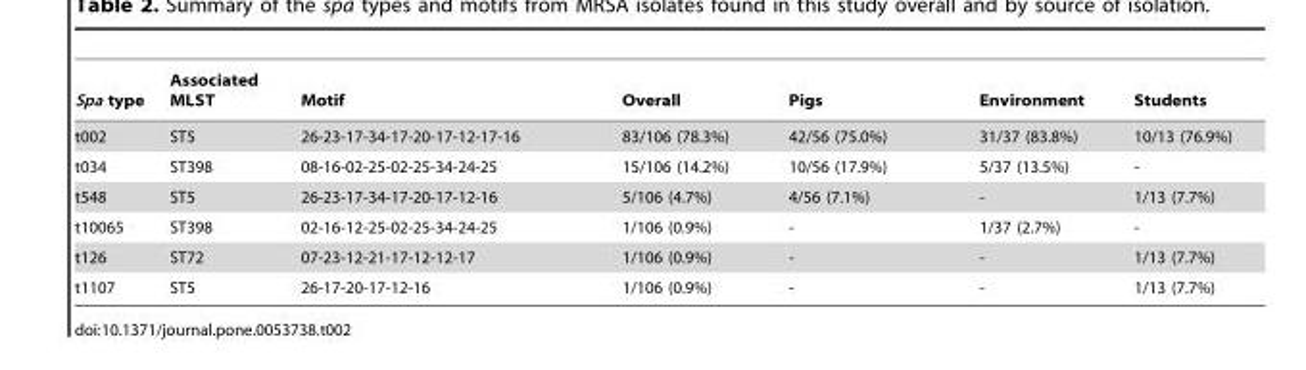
<table><thead><tr><td>Spa type</td><td>Associated MLST</td><td>Motif</td><td>Overall</td><td>Pigs</td><td>Environment</td><td>Students</td></tr></thead><tbody><tr><td>t002</td><td>ST5</td><td>26-23-17-34-17-20-17-12-17-16</td><td>83/106 (78.3%)</td><td>42/56 (75.0%)</td><td>31/37 (83.8%)</td><td>10/13 (76.9%)</td></tr><tr><td>t034</td><td>ST398</td><td>08-16-02-25-02-25-34-24-25</td><td>15/106 (14.2%)</td><td>10/56 (17.9%)</td><td>5/37 (13.5%)</td><td>-</td></tr><tr><td>t548</td><td>ST5</td><td>26-23-17-34-17-20-17-12-16</td><td>5/106 (4.7%)</td><td>4/56 (7.1%)</td><td>-</td><td>1/13 (7.7%)</td></tr><tr><td>t10065</td><td>ST398</td><td>02-16-12-25-02-25-34-24-25</td><td>1/106 (0.9%)</td><td>-</td><td>1/37 (2.7%)</td><td>-</td></tr><tr><td>t126</td><td>ST72</td><td>07-23-12-21-17-12-12-17</td><td>1/106 (0.9%)</td><td>-</td><td>-</td><td>1/13 (7.7%)</td></tr><tr><td>t1107</td><td>ST5</td><td>26-17-20-17-12-16</td><td>1/106 (0.9%)</td><td>-</td><td>-</td><td>1/13 (7.7%)</td></tr></tbody></table>